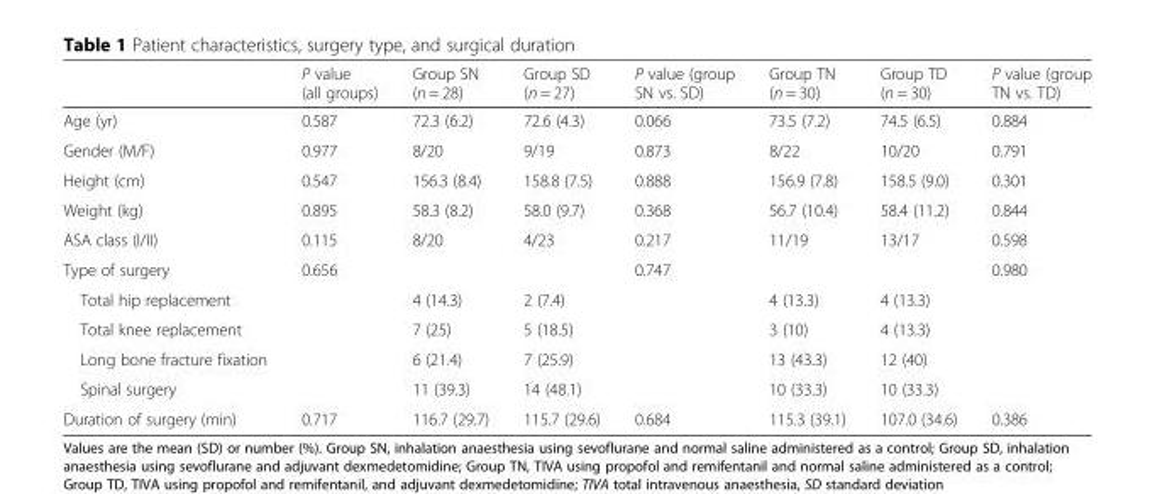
<table><thead><tr><td></td><td>P value (all groups)</td><td>Group SN (n = 28)</td><td>Group SD (n = 27)</td><td>P value (group SN vs. SD)</td><td>Group TN (n = 30)</td><td>Group TD (n = 30)</td><td>P value (group TN vs. TD)</td></tr></thead><tbody><tr><td>Age (yr)</td><td>0.587</td><td>72.3 (6.2)</td><td>72.6 (4.3)</td><td>0.066</td><td>73.5 (7.2)</td><td>74.5 (6.5)</td><td>0.884</td></tr><tr><td>Gender (M/F)</td><td>0.977</td><td>8/20</td><td>9/19</td><td>0.873</td><td>8/22</td><td>10/20</td><td>0.791</td></tr><tr><td>Height (cm)</td><td>0.547</td><td>156.3 (8.4)</td><td>158.8 (7.5)</td><td>0.888</td><td>156.9 (7.8)</td><td>158.5 (9.0)</td><td>0.301</td></tr><tr><td>Weight (kg)</td><td>0.895</td><td>58.3 (8.2)</td><td>58.0 (9.7)</td><td>0.368</td><td>56.7 (10.4)</td><td>58.4 (11.2)</td><td>0.844</td></tr><tr><td>ASA class (I/II)</td><td>0.115</td><td>8/20</td><td>4/23</td><td>0.217</td><td>11/19</td><td>13/17</td><td>0.598</td></tr><tr><td>Type of surgery</td><td>0.656</td><td></td><td></td><td>0.747</td><td></td><td></td><td>0.980</td></tr><tr><td>Total hip replacement</td><td></td><td>4 (14.3)</td><td>2 (7.4)</td><td></td><td>4 (13.3)</td><td>4 (13.3)</td><td></td></tr><tr><td>Total knee replacement</td><td></td><td>7 (25)</td><td>5 (18.5)</td><td></td><td>3 (10)</td><td>4 (13.3)</td><td></td></tr><tr><td>Long bone fracture fixation</td><td></td><td>6 (21.4)</td><td>7 (25.9)</td><td></td><td>13 (43.3)</td><td>12 (40)</td><td></td></tr><tr><td>Spinal surgery</td><td></td><td>11 (39.3)</td><td>14 (48.1)</td><td></td><td>10 (33.3)</td><td>10 (33.3)</td><td></td></tr><tr><td>Duration of surgery (min)</td><td>0.717</td><td>116.7 (29.7)</td><td>115.7 (29.6)</td><td>0.684</td><td>115.3 (39.1)</td><td>107.0 (34.6)</td><td>0.386</td></tr></tbody></table>